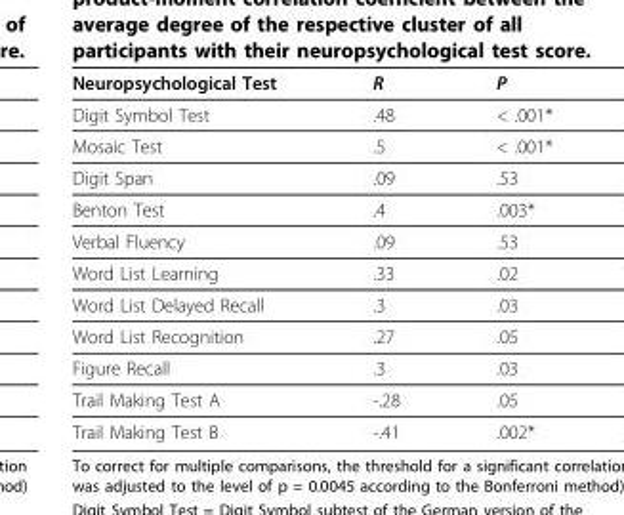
<table><thead><tr><td>Neuropsychological Test</td><td>R</td><td>P</td></tr></thead><tbody><tr><td>Digit Symbol Test</td><td>.48</td><td>&lt; .001*</td></tr><tr><td>Mosaic Test</td><td>.5</td><td>&lt; .001*</td></tr><tr><td>Digit Span</td><td>.09</td><td>.53</td></tr><tr><td>Benton Test</td><td>.4</td><td>.003*</td></tr><tr><td>Verbal Fluency</td><td>.09</td><td>.53</td></tr><tr><td>Word List Learning</td><td>.33</td><td>.02</td></tr><tr><td>Word List Delayed Recall</td><td>.3</td><td>.03</td></tr><tr><td>Word List Recognition</td><td>.27</td><td>.05</td></tr><tr><td>Figure Recall</td><td>.3</td><td>.03</td></tr><tr><td>Trail Making Test A</td><td>-.28</td><td>.05</td></tr><tr><td>Trail Making Test B</td><td>-.41</td><td>.002*</td></tr></tbody></table>